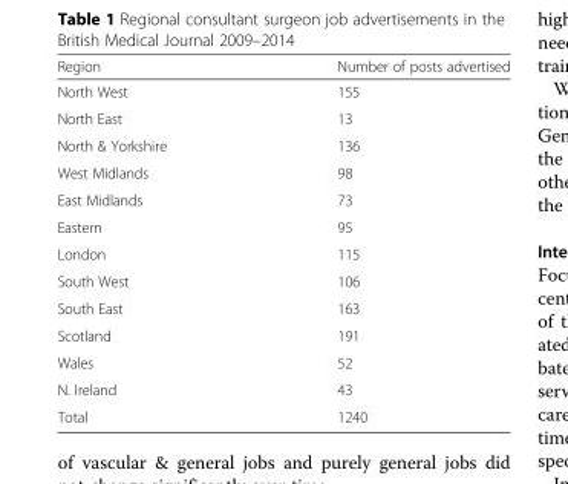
<table><thead><tr><td>Region</td><td>Number of posts advertised</td></tr></thead><tbody><tr><td>North West</td><td>155</td></tr><tr><td>North East</td><td>13</td></tr><tr><td>North &amp; Yorkshire</td><td>136</td></tr><tr><td>West Midlands</td><td>98</td></tr><tr><td>East Midlands</td><td>73</td></tr><tr><td>Eastern</td><td>95</td></tr><tr><td>London</td><td>115</td></tr><tr><td>South West</td><td>106</td></tr><tr><td>South East</td><td>163</td></tr><tr><td>Scotland</td><td>191</td></tr><tr><td>Wales</td><td>52</td></tr><tr><td>N. Ireland</td><td>43</td></tr><tr><td>Total</td><td>1240</td></tr></tbody></table>